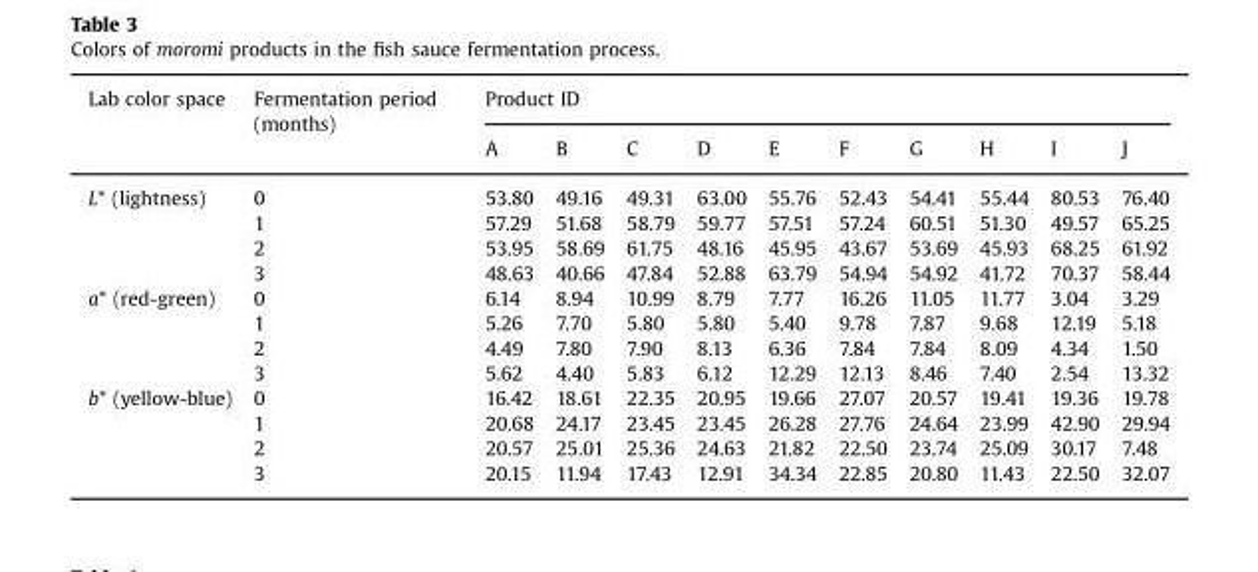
<table><thead><tr><td rowspan="2">Lab color space</td><td rowspan="2">Fermentation period (months)</td><td colspan="10">Product ID</td></tr><tr><td>A</td><td>B</td><td>C</td><td>D</td><td>E</td><td>F</td><td>G</td><td>H</td><td>I</td><td>J</td></tr></thead><tbody><tr><td rowspan="4">L* (lightness)</td><td>0</td><td>53.80</td><td>49.16</td><td>49.31</td><td>63.00</td><td>55.76</td><td>52.43</td><td>54.41</td><td>55.44</td><td>80.53</td><td>76.40</td></tr><tr><td>1</td><td>57.29</td><td>51.68</td><td>58.79</td><td>59.77</td><td>57.51</td><td>57.24</td><td>60.51</td><td>51.30</td><td>49.57</td><td>65.25</td></tr><tr><td>2</td><td>53.95</td><td>58.69</td><td>61.75</td><td>48.16</td><td>45.95</td><td>43.67</td><td>53.69</td><td>45.93</td><td>68.25</td><td>61.92</td></tr><tr><td>3</td><td>48.63</td><td>40.66</td><td>47.84</td><td>52.88</td><td>63.79</td><td>54.94</td><td>54.92</td><td>41.72</td><td>70.37</td><td>58.44</td></tr><tr><td rowspan="4">a* (red-green)</td><td>0</td><td>6.14</td><td>8.94</td><td>10.99</td><td>8.79</td><td>7.77</td><td>16.26</td><td>11.05</td><td>11.77</td><td>3.04</td><td>3.29</td></tr><tr><td>1</td><td>5.26</td><td>7.70</td><td>5.80</td><td>5.80</td><td>5.40</td><td>9.78</td><td>7.87</td><td>9.68</td><td>12.19</td><td>5.18</td></tr><tr><td>2</td><td>4.49</td><td>7.80</td><td>7.90</td><td>8.13</td><td>6.36</td><td>7.84</td><td>7.84</td><td>8.09</td><td>4.34</td><td>1.50</td></tr><tr><td>3</td><td>5.62</td><td>4.40</td><td>5.83</td><td>6.12</td><td>12.29</td><td>12.13</td><td>8.46</td><td>7.40</td><td>2.54</td><td>13.32</td></tr><tr><td rowspan="4">b* (yellow-blue)</td><td>0</td><td>16.42</td><td>18.61</td><td>22.35</td><td>20.95</td><td>19.66</td><td>27.07</td><td>20.57</td><td>19.41</td><td>19.36</td><td>19.78</td></tr><tr><td>1</td><td>20.68</td><td>24.17</td><td>23.45</td><td>23.45</td><td>26.28</td><td>27.76</td><td>24.64</td><td>23.99</td><td>42.90</td><td>29.94</td></tr><tr><td>2</td><td>20.57</td><td>25.01</td><td>25.36</td><td>24.63</td><td>21.82</td><td>22.50</td><td>23.74</td><td>25.09</td><td>30.17</td><td>7.48</td></tr><tr><td>3</td><td>20.15</td><td>11.94</td><td>17.43</td><td>12.91</td><td>34.34</td><td>22.85</td><td>20.80</td><td>11.43</td><td>22.50</td><td>32.07</td></tr></tbody></table>